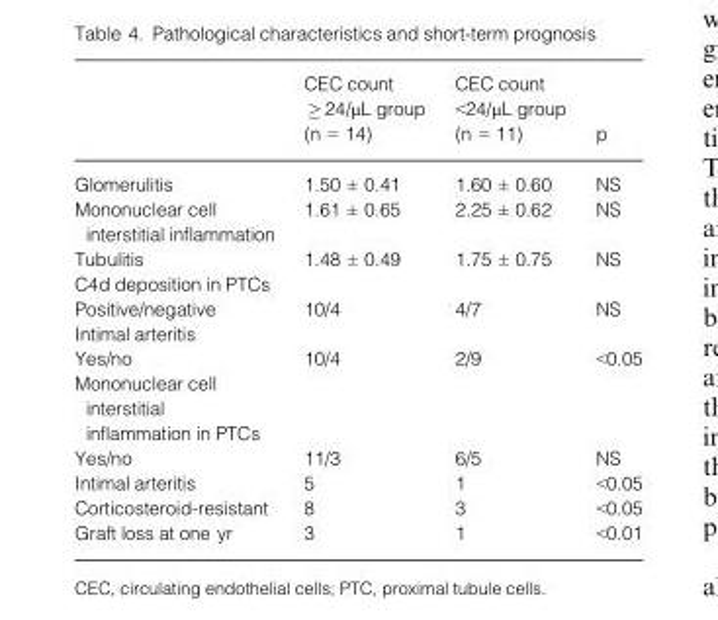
<table><thead><tr><td></td><td>CEC count ≥ 24/μL group (n = 14)</td><td>CEC count &lt;24/μL group (n = 11)</td><td>p</td></tr></thead><tbody><tr><td>Glomerulitis</td><td>1.50 ± 0.41</td><td>1.60 ± 0.60</td><td>NS</td></tr><tr><td>Mononuclear cell interstitial inflammation</td><td>1.61 ± 0.65</td><td>2.25 ± 0.62</td><td>NS</td></tr><tr><td>Tubulitis</td><td>1.48 ± 0.49</td><td>1.75 ± 0.75</td><td>NS</td></tr><tr><td colspan="4">C4d deposition in PTCs</td></tr><tr><td>Positive/negative</td><td>10/4</td><td>4/7</td><td>NS</td></tr><tr><td colspan="4">Intimal arteritis</td></tr><tr><td>Yes/no</td><td>10/4</td><td>2/9</td><td>&lt;0.05</td></tr><tr><td colspan="4">Mononuclear cell interstitial inflammation in PTCs</td></tr><tr><td>Yes/no</td><td>11/3</td><td>6/5</td><td>NS</td></tr><tr><td>Intimal arteritis</td><td>5</td><td>1</td><td>&lt;0.05</td></tr><tr><td>Corticosteroid-resistant</td><td>8</td><td>3</td><td>&lt;0.05</td></tr><tr><td>Graft loss at one yr</td><td>3</td><td>1</td><td>&lt;0.01</td></tr></tbody></table>